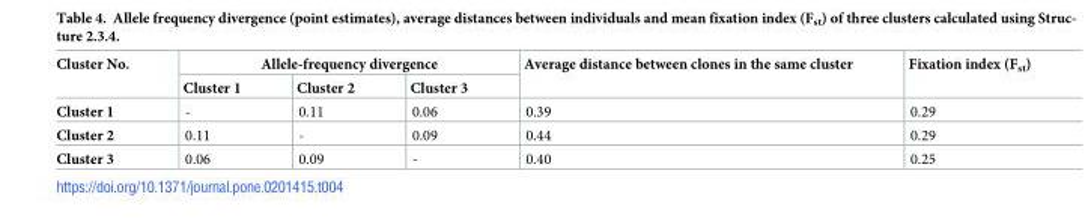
<table><thead><tr><td rowspan="2">Cluster No.</td><td colspan="3">Allele-frequency divergence</td><td rowspan="2">Average distance between clones in the same cluster</td><td rowspan="2">Fixation index (F<sub>st</sub>)</td></tr><tr><td>Cluster 1</td><td>Cluster 2</td><td>Cluster 3</td></tr></thead><tbody><tr><td>Cluster 1</td><td>-</td><td>0.11</td><td>0.06</td><td>0.39</td><td>0.29</td></tr><tr><td>Cluster 2</td><td>0.11</td><td>-</td><td>0.09</td><td>0.44</td><td>0.29</td></tr><tr><td>Cluster 3</td><td>0.06</td><td>0.09</td><td>-</td><td>0.40</td><td>0.25</td></tr></tbody></table>